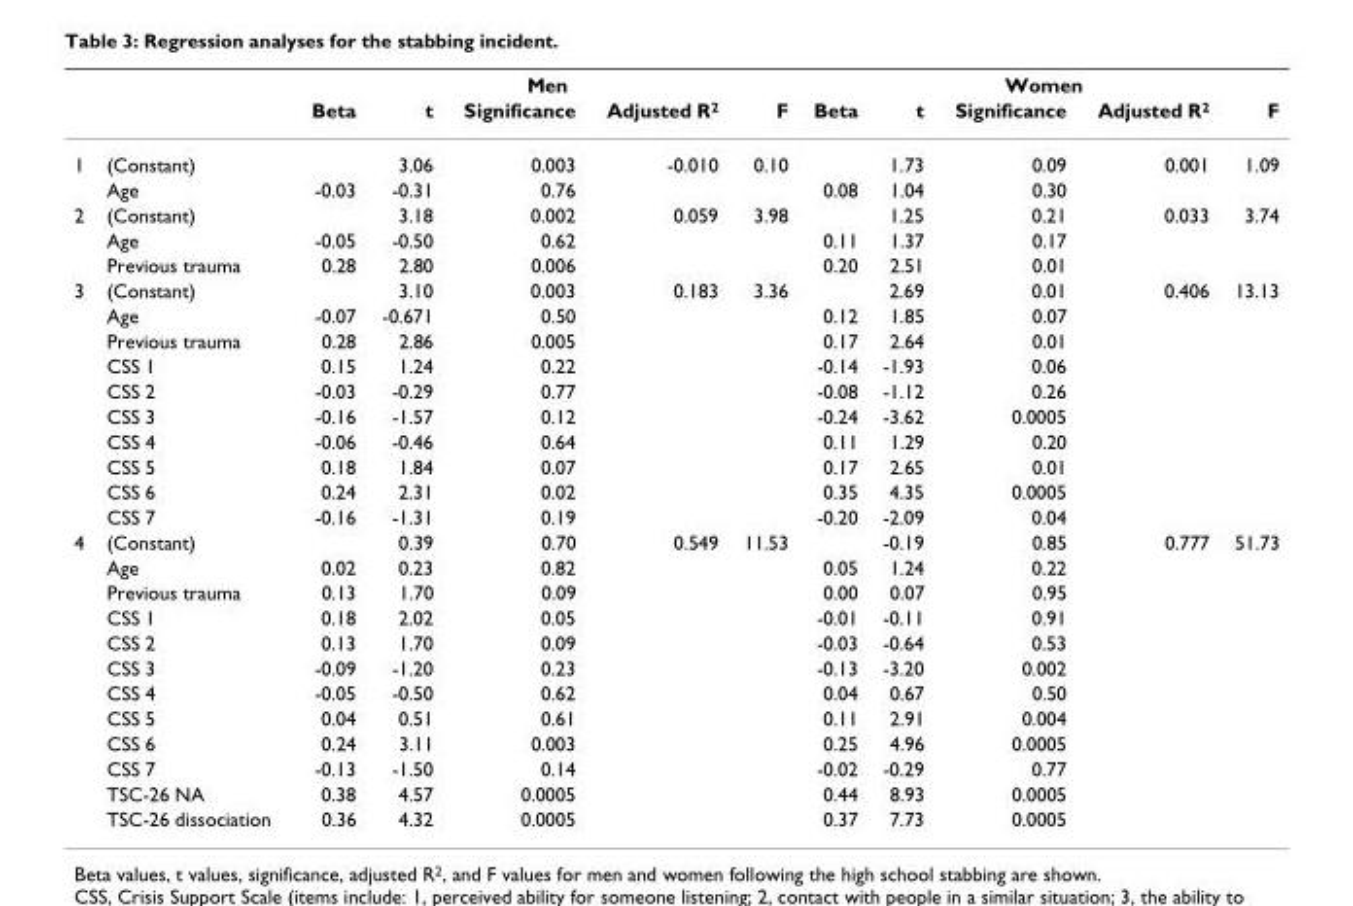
<table><thead><tr><td rowspan="2"></td><td rowspan="2"></td><td colspan="5">Men</td><td colspan="5">Women</td></tr><tr><td>Beta</td><td>t</td><td>Significance</td><td>Adjusted R<sup>2</sup></td><td>F</td><td>Beta</td><td>t</td><td>Significance</td><td>Adjusted R<sup>2</sup></td><td>F</td></tr></thead><tbody><tr><td rowspan="2">1</td><td>(Constant)</td><td></td><td>3.06</td><td>0.003</td><td>-0.010</td><td>0.10</td><td></td><td>1.73</td><td>0.09</td><td>0.001</td><td>1.09</td></tr><tr><td>Age</td><td>-0.03</td><td>-0.31</td><td>0.76</td><td></td><td></td><td>0.08</td><td>1.04</td><td>0.30</td><td></td><td></td></tr><tr><td rowspan="3">2</td><td>(Constant)</td><td></td><td>3.18</td><td>0.002</td><td>0.059</td><td>3.98</td><td></td><td>1.25</td><td>0.21</td><td>0.033</td><td>3.74</td></tr><tr><td>Age</td><td>-0.05</td><td>-0.50</td><td>0.62</td><td></td><td></td><td>0.11</td><td>1.37</td><td>0.17</td><td></td><td></td></tr><tr><td>Previous trauma</td><td>0.28</td><td>2.80</td><td>0.006</td><td></td><td></td><td>0.20</td><td>2.51</td><td>0.01</td><td></td><td></td></tr><tr><td rowspan="10">3</td><td>(Constant)</td><td></td><td>3.10</td><td>0.003</td><td>0.183</td><td>3.36</td><td></td><td>2.69</td><td>0.01</td><td>0.406</td><td>13.13</td></tr><tr><td>Age</td><td>-0.07</td><td>-0.671</td><td>0.50</td><td></td><td></td><td>0.12</td><td>1.85</td><td>0.07</td><td></td><td></td></tr><tr><td>Previous trauma</td><td>0.28</td><td>2.86</td><td>0.005</td><td></td><td></td><td>0.17</td><td>2.64</td><td>0.01</td><td></td><td></td></tr><tr><td>CSS 1</td><td>0.15</td><td>1.24</td><td>0.22</td><td></td><td></td><td>-0.14</td><td>-1.93</td><td>0.06</td><td></td><td></td></tr><tr><td>CSS 2</td><td>-0.03</td><td>-0.29</td><td>0.77</td><td></td><td></td><td>-0.08</td><td>-1.12</td><td>0.26</td><td></td><td></td></tr><tr><td>CSS 3</td><td>-0.16</td><td>-1.57</td><td>0.12</td><td></td><td></td><td>-0.24</td><td>-3.62</td><td>0.0005</td><td></td><td></td></tr><tr><td>CSS 4</td><td>-0.06</td><td>-0.46</td><td>0.64</td><td></td><td></td><td>0.11</td><td>1.29</td><td>0.20</td><td></td><td></td></tr><tr><td>CSS 5</td><td>0.18</td><td>1.84</td><td>0.07</td><td></td><td></td><td>0.17</td><td>2.65</td><td>0.01</td><td></td><td></td></tr><tr><td>CSS 6</td><td>0.24</td><td>2.31</td><td>0.02</td><td></td><td></td><td>0.35</td><td>4.35</td><td>0.0005</td><td></td><td></td></tr><tr><td>CSS 7</td><td>-0.16</td><td>-1.31</td><td>0.19</td><td></td><td></td><td>-0.20</td><td>-2.09</td><td>0.04</td><td></td><td></td></tr><tr><td rowspan="12">4</td><td>(Constant)</td><td></td><td>0.39</td><td>0.70</td><td>0.549</td><td>11.53</td><td></td><td>-0.19</td><td>0.85</td><td>0.777</td><td>51.73</td></tr><tr><td>Age</td><td>0.02</td><td>0.23</td><td>0.82</td><td></td><td></td><td>0.05</td><td>1.24</td><td>0.22</td><td></td><td></td></tr><tr><td>Previous trauma</td><td>0.13</td><td>1.70</td><td>0.09</td><td></td><td></td><td>0.00</td><td>0.07</td><td>0.95</td><td></td><td></td></tr><tr><td>CSS 1</td><td>0.18</td><td>2.02</td><td>0.05</td><td></td><td></td><td>-0.01</td><td>-0.11</td><td>0.91</td><td></td><td></td></tr><tr><td>CSS 2</td><td>0.13</td><td>1.70</td><td>0.09</td><td></td><td></td><td>-0.03</td><td>-0.64</td><td>0.53</td><td></td><td></td></tr><tr><td>CSS 3</td><td>-0.09</td><td>-1.20</td><td>0.23</td><td></td><td></td><td>-0.13</td><td>-3.20</td><td>0.002</td><td></td><td></td></tr><tr><td>CSS 4</td><td>-0.05</td><td>-0.50</td><td>0.62</td><td></td><td></td><td>0.04</td><td>0.67</td><td>0.50</td><td></td><td></td></tr><tr><td>CSS 5</td><td>0.04</td><td>0.51</td><td>0.61</td><td></td><td></td><td>0.11</td><td>2.91</td><td>0.004</td><td></td><td></td></tr><tr><td>CSS 6</td><td>0.24</td><td>3.11</td><td>0.003</td><td></td><td></td><td>0.25</td><td>4.96</td><td>0.0005</td><td></td><td></td></tr><tr><td>CSS 7</td><td>-0.13</td><td>-1.50</td><td>0.14</td><td></td><td></td><td>-0.02</td><td>-0.29</td><td>0.77</td><td></td><td></td></tr><tr><td>TSC-26 NA</td><td>0.38</td><td>4.57</td><td>0.0005</td><td></td><td></td><td>0.44</td><td>8.93</td><td>0.0005</td><td></td><td></td></tr><tr><td>TSC-26 dissociation</td><td>0.36</td><td>4.32</td><td>0.0005</td><td></td><td></td><td>0.37</td><td>7.73</td><td>0.0005</td><td></td><td></td></tr></tbody></table>